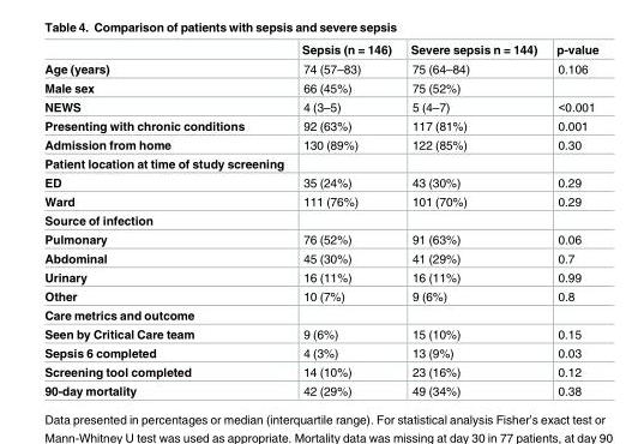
<table><thead><tr><td></td><td>Sepsis (n = 146)</td><td>Severe sepsis n = 144)</td><td>p-value</td></tr></thead><tbody><tr><td>Age (years)</td><td>74 (57–83)</td><td>75 (64–84)</td><td>0.106</td></tr><tr><td>Male sex</td><td>66 (45%)</td><td>75 (52%)</td><td></td></tr><tr><td>NEWS</td><td>4 (3–5)</td><td>5 (4–7)</td><td>&lt;0.001</td></tr><tr><td>Presenting with chronic conditions</td><td>92 (63%)</td><td>117 (81%)</td><td>0.001</td></tr><tr><td>Admission from home</td><td>130 (89%)</td><td>122 (85%)</td><td>0.30</td></tr><tr><td colspan="4">Patient location at time of study screening</td></tr><tr><td>ED</td><td>35 (24%)</td><td>43 (30%)</td><td>0.29</td></tr><tr><td>Ward</td><td>111 (76%)</td><td>101 (70%)</td><td>0.29</td></tr><tr><td colspan="4">Source of infection</td></tr><tr><td>Pulmonary</td><td>76 (52%)</td><td>91 (63%)</td><td>0.06</td></tr><tr><td>Abdominal</td><td>45 (30%)</td><td>41 (29%)</td><td>0.7</td></tr><tr><td>Urinary</td><td>16 (11%)</td><td>16 (11%)</td><td>0.99</td></tr><tr><td>Other</td><td>10 (7%)</td><td>9 (6%)</td><td>0.8</td></tr><tr><td colspan="4">Care metrics and outcome</td></tr><tr><td>Seen by Critical Care team</td><td>9 (6%)</td><td>15 (10%)</td><td>0.15</td></tr><tr><td>Sepsis 6 completed</td><td>4 (3%)</td><td>13 (9%)</td><td>0.03</td></tr><tr><td>Screening tool completed</td><td>14 (10%)</td><td>23 (16%)</td><td>0.12</td></tr><tr><td>90-day mortality</td><td>42 (29%)</td><td>49 (34%)</td><td>0.38</td></tr></tbody></table>